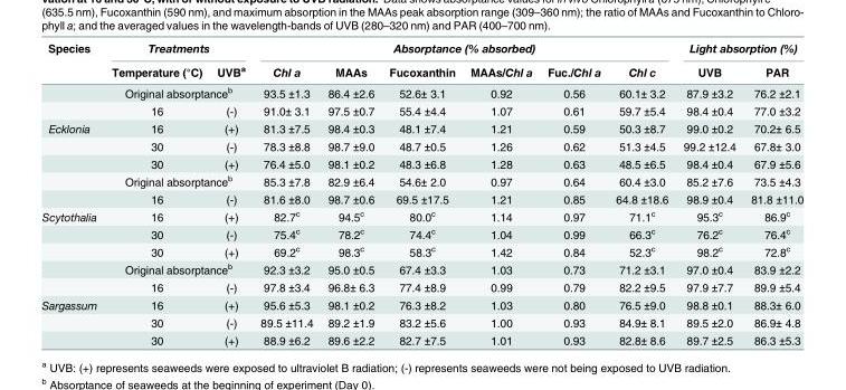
<table><thead><tr><td rowspan="2">Species</td><td colspan="2">Treatments</td><td colspan="6">Absorptance (% absorbed)</td><td colspan="2">Light absorption (%)</td></tr><tr><td>Temperature (°C)</td><td>UVB<sup>a</sup></td><td>Chl a</td><td>MAAs</td><td>Fucoxanthin</td><td>MAAs/Chl a</td><td>Fuc./Chl a</td><td>Chl c</td><td>UVB</td><td>PAR</td></tr></thead><tbody><tr><td></td><td colspan="2">Original absorptance<sup>b</sup></td><td>93.5 ±1.3</td><td>86.4 ±2.6</td><td>52.6± 3.1</td><td>0.92</td><td>0.56</td><td>60.1± 3.2</td><td>87.9 ±3.2</td><td>76.2 ±2.1</td></tr><tr><td></td><td>16</td><td>(-)</td><td>91.0± 3.1</td><td>97.5 ±0.7</td><td>55.4 ±4.4</td><td>1.07</td><td>0.61</td><td>59.7 ±5.4</td><td>98.4 ±0.4</td><td>77.0 ±3.2</td></tr><tr><td rowspan="5">Ecklonia</td><td>16</td><td>(+)</td><td>81.3 ±7.5</td><td>98.4 ±0.3</td><td>48.1 ±7.4</td><td>1.21</td><td>0.59</td><td>50.3 ±8.7</td><td>99.0 ±0.2</td><td>70.2± 6.5</td></tr><tr><td>30</td><td>(-)</td><td>78.3 ±8.8</td><td>98.7 ±9.0</td><td>48.7 ±0.5</td><td>1.26</td><td>0.62</td><td>51.3 ±4.5</td><td>99.2 ±12.4</td><td>67.8± 3.0</td></tr><tr><td>30</td><td>(+)</td><td>76.4 ±5.0</td><td>98.1 ±0.2</td><td>48.3 ±6.8</td><td>1.28</td><td>0.63</td><td>48.5 ±6.5</td><td>98.4 ±0.4</td><td>67.9 ±5.6</td></tr><tr><td colspan="2">Original absorptance<sup>b</sup></td><td>85.3 ±7.8</td><td>82.9 ±6.4</td><td>54.6± 2.0</td><td>0.97</td><td>0.64</td><td>60.4 ±3.0</td><td>85.2 ±7.6</td><td>73.5 ±4.3</td></tr><tr><td>16</td><td>(-)</td><td>81.6 ±8.0</td><td>98.7 ±0.6</td><td>69.5 ±17.5</td><td>1.21</td><td>0.85</td><td>64.8 ±18.6</td><td>98.9 ±0.4</td><td>81.8 ±11.0</td></tr><tr><td rowspan="5">Scytothalia</td><td>16</td><td>(+)</td><td>82.7<sup>c</sup></td><td>94.5<sup>c</sup></td><td>80.0<sup>c</sup></td><td>1.14</td><td>0.97</td><td>71.1<sup>c</sup></td><td>95.3<sup>c</sup></td><td>86.9<sup>c</sup></td></tr><tr><td>30</td><td>(-)</td><td>75.4<sup>c</sup></td><td>78.2<sup>c</sup></td><td>74.4<sup>c</sup></td><td>1.04</td><td>0.99</td><td>66.3<sup>c</sup></td><td>76.2<sup>c</sup></td><td>76.4<sup>c</sup></td></tr><tr><td>30</td><td>(+)</td><td>69.2<sup>c</sup></td><td>98.3<sup>c</sup></td><td>58.3<sup>c</sup></td><td>1.42</td><td>0.84</td><td>52.3<sup>c</sup></td><td>98.2<sup>c</sup></td><td>72.8<sup>c</sup></td></tr><tr><td colspan="2">Original absorptance<sup>b</sup></td><td>92.3 ±3.2</td><td>95.0 ±0.5</td><td>67.4 ±3.3</td><td>1.03</td><td>0.73</td><td>71.2 ±3.1</td><td>97.0 ±0.4</td><td>83.9 ±2.2</td></tr><tr><td>16</td><td>(-)</td><td>97.8 ±3.4</td><td>96.8± 6.3</td><td>77.4 ±8.9</td><td>0.99</td><td>0.79</td><td>82.2 ±9.5</td><td>97.9 ±7.7</td><td>89.9 ±5.4</td></tr><tr><td rowspan="3">Sargassum</td><td>16</td><td>(+)</td><td>95.6 ±5.3</td><td>98.1 ±0.2</td><td>76.3 ±8.2</td><td>1.03</td><td>0.80</td><td>76.5 ±9.0</td><td>98.8 ±0.1</td><td>88.3± 6.0</td></tr><tr><td>30</td><td>(-)</td><td>89.5 ±11.4</td><td>89.2 ±1.9</td><td>83.2 ±5.6</td><td>1.00</td><td>0.93</td><td>84.9± 8.1</td><td>89.5 ±2.0</td><td>86.9± 4.8</td></tr><tr><td>30</td><td>(+)</td><td>88.9 ±6.2</td><td>89.6 ±2.2</td><td>82.7 ±7.5</td><td>1.01</td><td>0.93</td><td>82.8± 8.6</td><td>89.7 ±2.5</td><td>86.3 ±5.3</td></tr></tbody></table>